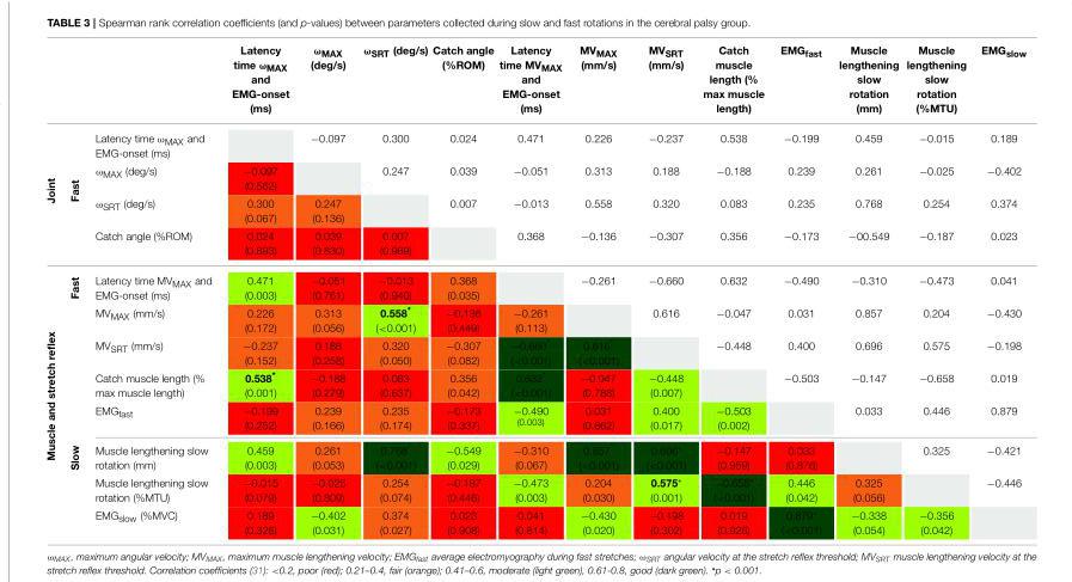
<table><thead><tr><td></td><td></td><td></td><td>Latency time ω<sub>MAX</sub> and EMG-onset (ms)</td><td>ω<sub>MAX</sub> (deg/s)</td><td>ω<sub>SRT</sub> (deg/s)</td><td>Catch angle (%ROM)</td><td>Latency time MV<sub>MAX</sub> and EMG-onset (ms)</td><td>MV<sub>MAX</sub> (mm/s)</td><td>MV<sub>SRT</sub> (mm/s)</td><td>Catch muscle length (% max muscle length)</td><td>EMG<sub>fast</sub></td><td>Muscle lengthening slow rotation (mm)</td><td>Muscle lengthening slow rotation (%MTU)</td><td>EMG<sub>slow</sub></td></tr></thead><tbody><tr><td rowspan="4">Joint</td><td rowspan="4">Fast</td><td>Latency time ω<sub>MAX</sub> and EMG-onset (ms)</td><td></td><td>−0.097</td><td>0.300</td><td>0.024</td><td>0.471</td><td>0.226</td><td>−0.237</td><td>0.538</td><td>−0.199</td><td>0.459</td><td>−0.015</td><td>0.189</td></tr><tr><td>ω<sub>MAX</sub> (deg/s)</td><td>−0.097 (0.562)</td><td></td><td>0.247</td><td>0.039</td><td>−0.051</td><td>0.313</td><td>0.188</td><td>−0.188</td><td>0.239</td><td>0.261</td><td>−0.025</td><td>−0.402</td></tr><tr><td>ω<sub>SRT</sub> (deg/s)</td><td>0.300 (0.067)</td><td>0.247 (0.136)</td><td></td><td>0.007</td><td>−0.013</td><td>0.558</td><td>0.320</td><td>0.083</td><td>0.235</td><td>0.768</td><td>0.254</td><td>0.374</td></tr><tr><td>Catch angle (%ROM)</td><td>0.024 (0.893)</td><td>0.039 (0.830)</td><td>0.007 (0.969)</td><td></td><td>0.368</td><td>−0.136</td><td>−0.307</td><td>0.356</td><td>−0.173</td><td>−00.549</td><td>−0.187</td><td>0.023</td></tr><tr><td rowspan="8">Muscle and stretch reflex</td><td rowspan="5">Fast</td><td>Latency time MV<sub>MAX</sub> and EMG-onset (ms)</td><td>0.471 (0.003)</td><td>−0.051 (0.761)</td><td>−0.013 (0.940)</td><td>0.368 (0.035)</td><td></td><td>−0.261</td><td>−0.660</td><td>0.632</td><td>−0.490</td><td>−0.310</td><td>−0.473</td><td>0.041</td></tr><tr><td>MV<sub>MAX</sub> (mm/s)</td><td>0.226 (0.172)</td><td>0.313 (0.056)</td><td>0.558* (&lt;0.001)</td><td>−0.136 (0.449)</td><td>−0.261 (0.113)</td><td></td><td>0.616</td><td>−0.047</td><td>0.031</td><td>0.857</td><td>0.204</td><td>−0.430</td></tr><tr><td>MV<sub>SRT</sub> (mm/s)</td><td>−0.237 (0.152)</td><td>0.188 (0.258)</td><td>0.320 (0.050)</td><td>−0.307 (0.082)</td><td>−0.660* (&lt;0.001)</td><td>0.616* (&lt;0.001)</td><td></td><td>−0.448</td><td>0.400</td><td>0.696</td><td>0.575</td><td>−0.198</td></tr><tr><td>Catch muscle length (% max muscle length)</td><td>0.538* (0.001)</td><td>−0.188 (0.279)</td><td>0.083 (0.637)</td><td>0.356 (0.042)</td><td>0.632* (&lt;0.001)</td><td>−0.047 (0.788)</td><td>−0.448 (0.007)</td><td></td><td>−0.503</td><td>−0.147</td><td>−0.658</td><td>0.019</td></tr><tr><td>EMG<sub>fast</sub></td><td>−0.199 (0.252)</td><td>0.239 (0.166)</td><td>0.235 (0.174)</td><td>−0.173 (0.337)</td><td>−0.490 <sup>(0.003)</sup></td><td>0.031 (0.862)</td><td>0.400 (0.017)</td><td>−0.503 (0.002)</td><td></td><td>0.033</td><td>0.446</td><td>0.879</td></tr><tr><td rowspan="3">Slow</td><td>Muscle lengthening slow rotation (mm)</td><td>0.459 (0.003)</td><td>0.261 (0.053)</td><td>0.768* (&lt;0.001)</td><td>−0.549 (0.029)</td><td>−0.310 (0.067)</td><td>0.857* (&lt;0.001)</td><td>0.696* (&lt;0.001)</td><td>−0.147 (0.959)</td><td>0.033 (0.876)</td><td></td><td>0.325</td><td>−0.421</td></tr><tr><td>Muscle lengthening slow rotation (%MTU)</td><td>−0.015 (0.079)</td><td>−0.025 (0.809)</td><td>0.254 (0.074)</td><td>−0.187 (0.446)</td><td>−0.473 (0.003)</td><td>0.204 (0.030)</td><td>0.575* (0.001)</td><td>−0.658* (&lt;0.001)</td><td>0.446 (0.042)</td><td>0.325 (0.056)</td><td></td><td>−0.446</td></tr><tr><td>EMG<sub>slow</sub> (%MVC)</td><td>0.189 (0.326)</td><td>−0.402 (0.031)</td><td>0.374 (0.027)</td><td>0.023 (0.908)</td><td>0.041 (0.814)</td><td>−0.430 (0.020)</td><td>−0.198 (0.302)</td><td>0.019 (0.926)</td><td>0.879* (&lt;0.001)</td><td>−0.338 (0.054)</td><td>−0.356 (0.042)</td><td></td></tr></tbody></table>